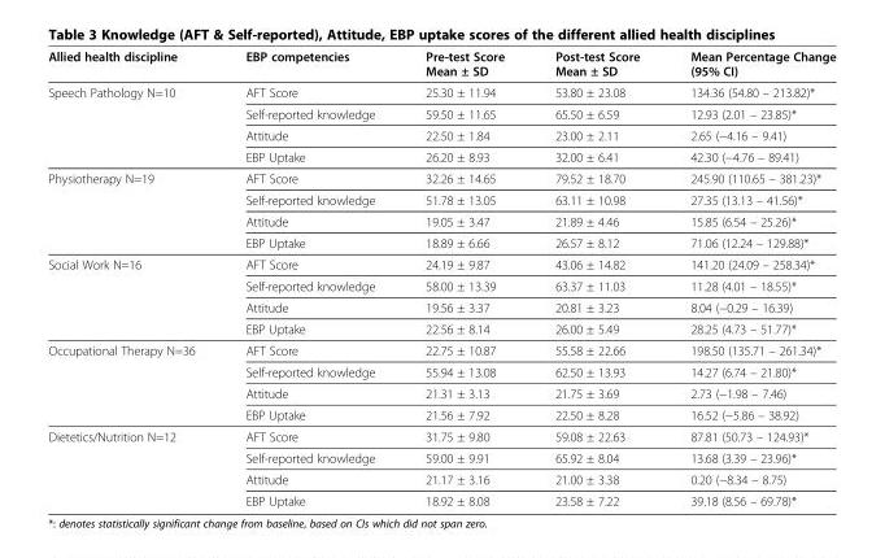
<table><thead><tr><td>Allied health discipline</td><td>EBP competencies</td><td>Pre-test Score Mean ± SD</td><td>Post-test Score Mean ± SD</td><td>Mean Percentage Change (95% CI)</td></tr></thead><tbody><tr><td rowspan="4">Speech Pathology N=10</td><td>AFT Score</td><td>25.30 ± 11.94</td><td>53.80 ± 23.08</td><td>134.36 (54.80 – 213.82)*</td></tr><tr><td>Self-reported knowledge</td><td>59.50 ± 11.65</td><td>65.50 ± 6.59</td><td>12.93 (2.01 – 23.85)*</td></tr><tr><td>Attitude</td><td>22.50 ± 1.84</td><td>23.00 ± 2.11</td><td>2.65 (−4.16 – 9.41)</td></tr><tr><td>EBP Uptake</td><td>26.20 ± 8.93</td><td>32.00 ± 6.41</td><td>42.30 (−4.76 – 89.41)</td></tr><tr><td rowspan="4">Physiotherapy N=19</td><td>AFT Score</td><td>32.26 ± 14.65</td><td>79.52 ± 18.70</td><td>245.90 (110.65 – 381.23)*</td></tr><tr><td>Self-reported knowledge</td><td>51.78 ± 13.05</td><td>63.11 ± 10.98</td><td>27.35 (13.13 – 41.56)*</td></tr><tr><td>Attitude</td><td>19.05 ± 3.47</td><td>21.89 ± 4.46</td><td>15.85 (6.54 – 25.26)*</td></tr><tr><td>EBP Uptake</td><td>18.89 ± 6.66</td><td>26.57 ± 8.12</td><td>71.06 (12.24 – 129.88)*</td></tr><tr><td rowspan="4">Social Work N=16</td><td>AFT Score</td><td>24.19 ± 9.87</td><td>43.06 ± 14.82</td><td>141.20 (24.09 – 258.34)*</td></tr><tr><td>Self-reported knowledge</td><td>58.00 ± 13.39</td><td>63.37 ± 11.03</td><td>11.28 (4.01 – 18.55)*</td></tr><tr><td>Attitude</td><td>19.56 ± 3.37</td><td>20.81 ± 3.23</td><td>8.04 (−0.29 – 16.39)</td></tr><tr><td>EBP Uptake</td><td>22.56 ± 8.14</td><td>26.00 ± 5.49</td><td>28.25 (4.73 – 51.77)*</td></tr><tr><td rowspan="4">Occupational Therapy N=36</td><td>AFT Score</td><td>22.75 ± 10.87</td><td>55.58 ± 22.66</td><td>198.50 (135.71 – 261.34)*</td></tr><tr><td>Self-reported knowledge</td><td>55.94 ± 13.08</td><td>62.50 ± 13.93</td><td>14.27 (6.74 – 21.80)*</td></tr><tr><td>Attitude</td><td>21.31 ± 3.13</td><td>21.75 ± 3.69</td><td>2.73 (−1.98 – 7.46)</td></tr><tr><td>EBP Uptake</td><td>21.56 ± 7.92</td><td>22.50 ± 8.28</td><td>16.52 (−5.86 – 38.92)</td></tr><tr><td rowspan="4">Dietetics/Nutrition N=12</td><td>AFT Score</td><td>31.75 ± 9.80</td><td>59.08 ± 22.63</td><td>87.81 (50.73 – 124.93)*</td></tr><tr><td>Self-reported knowledge</td><td>59.00 ± 9.91</td><td>65.92 ± 8.04</td><td>13.68 (3.39 – 23.96)*</td></tr><tr><td>Attitude</td><td>21.17 ± 3.16</td><td>21.00 ± 3.38</td><td>0.20 (−8.34 – 8.75)</td></tr><tr><td>EBP Uptake</td><td>18.92 ± 8.08</td><td>23.58 ± 7.22</td><td>39.18 (8.56 – 69.78)*</td></tr></tbody></table>